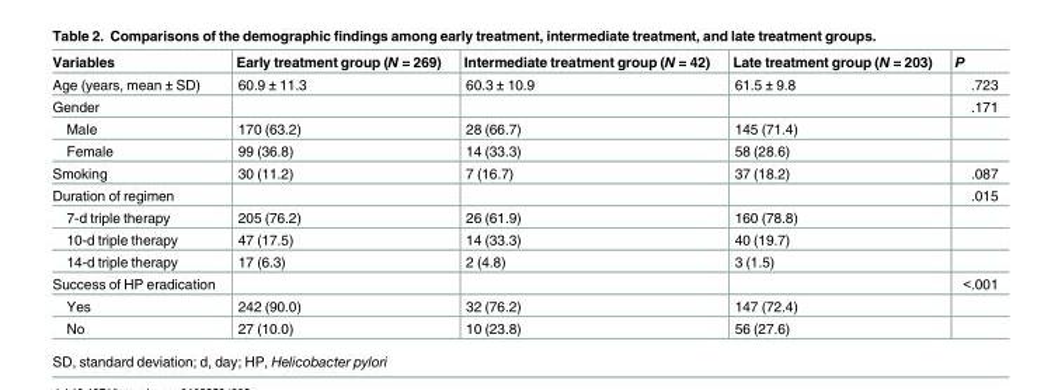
<table><thead><tr><td>Variables</td><td>Early treatment group (N = 269)</td><td>Intermediate treatment group (N = 42)</td><td>Late treatment group (N = 203)</td><td>P</td></tr></thead><tbody><tr><td>Age (years, mean ± SD)</td><td>60.9 ± 11.3</td><td>60.3 ± 10.9</td><td>61.5 ± 9.8</td><td>.723</td></tr><tr><td>Gender</td><td></td><td></td><td></td><td>.171</td></tr><tr><td>Male</td><td>170 (63.2)</td><td>28 (66.7)</td><td>145 (71.4)</td><td></td></tr><tr><td>Female</td><td>99 (36.8)</td><td>14 (33.3)</td><td>58 (28.6)</td><td></td></tr><tr><td>Smoking</td><td>30 (11.2)</td><td>7 (16.7)</td><td>37 (18.2)</td><td>.087</td></tr><tr><td>Duration of regimen</td><td></td><td></td><td></td><td>.015</td></tr><tr><td>7-d triple therapy</td><td>205 (76.2)</td><td>26 (61.9)</td><td>160 (78.8)</td><td></td></tr><tr><td>10-d triple therapy</td><td>47 (17.5)</td><td>14 (33.3)</td><td>40 (19.7)</td><td></td></tr><tr><td>14-d triple therapy</td><td>17 (6.3)</td><td>2 (4.8)</td><td>3 (1.5)</td><td></td></tr><tr><td>Success of HP eradication</td><td></td><td></td><td></td><td>&lt;.001</td></tr><tr><td>Yes</td><td>242 (90.0)</td><td>32 (76.2)</td><td>147 (72.4)</td><td></td></tr><tr><td>No</td><td>27 (10.0)</td><td>10 (23.8)</td><td>56 (27.6)</td><td></td></tr></tbody></table>